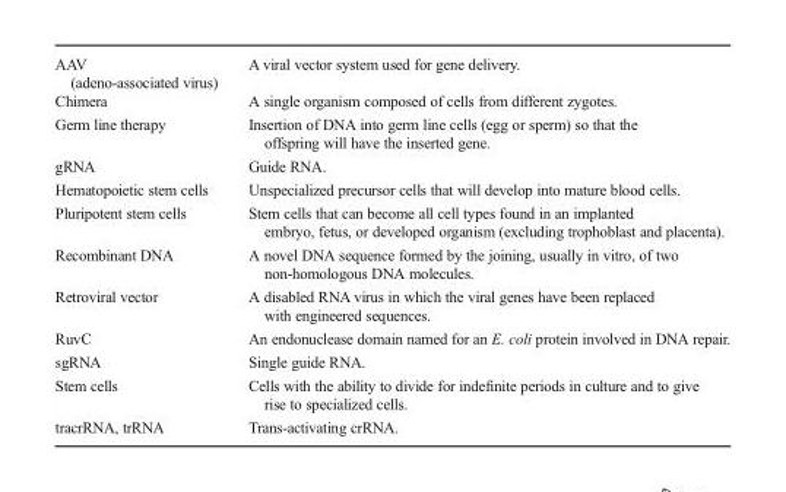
<table><tbody><tr><td>AAV (adeno-associated virus)</td><td>A viral vector system used for gene delivery.</td></tr><tr><td>Chimera</td><td>A single organism composed of cells from different zygotes.</td></tr><tr><td>Germ line therapy</td><td>Insertion of DNA into germ line cells (egg or sperm) so that the offspring will have the inserted gene.</td></tr><tr><td>gRNA</td><td>Guide RNA.</td></tr><tr><td>Hematopoietic stem cells</td><td>Unspecialized precursor cells that will develop into mature blood cells.</td></tr><tr><td>Pluripotent stem cells</td><td>Stem cells that can become all cell types found in an implanted embryo, fetus, or developed organism (excluding trophoblast and placenta).</td></tr><tr><td>Recombinant DNA</td><td>A novel DNA sequence formed by the joining, usually in vitro, of two non-homologous DNA molecules.</td></tr><tr><td>Retroviral vector</td><td>A disabled RNA virus in which the viral genes have been replaced with engineered sequences.</td></tr><tr><td>RuvC</td><td>An endonuclease domain named for an E. coli protein involved in DNA repair.</td></tr><tr><td>sgRNA</td><td>Single guide RNA.</td></tr><tr><td>Stem cells</td><td>Cells with the ability to divide for indefinite periods in culture and to give rise to specialized cells.</td></tr><tr><td>tracrRNA, trRNA</td><td>Trans-activating crRNA.</td></tr></tbody></table>